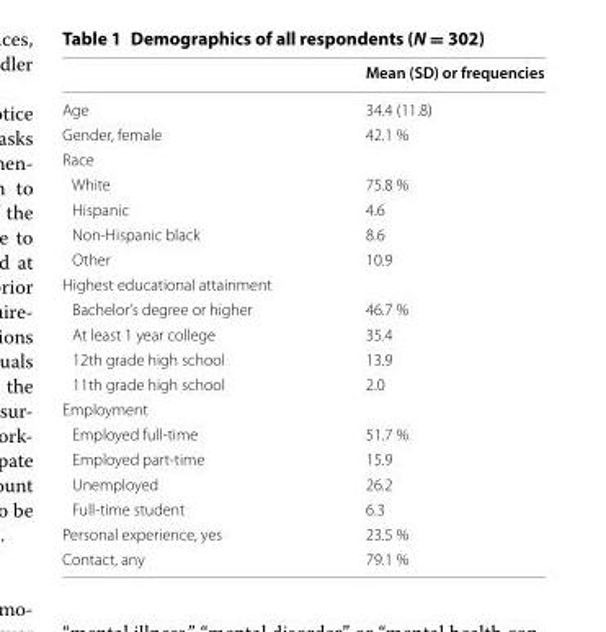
<table><thead><tr><td></td><td>Mean (SD) or frequencies</td></tr></thead><tbody><tr><td>Age</td><td>34.4 (11.8)</td></tr><tr><td>Gender, female</td><td>42.1 %</td></tr><tr><td colspan="2">Race</td></tr><tr><td>White</td><td>75.8 %</td></tr><tr><td>Hispanic</td><td>4.6</td></tr><tr><td>Non-Hispanic black</td><td>8.6</td></tr><tr><td>Other</td><td>10.9</td></tr><tr><td colspan="2">Highest educational attainment</td></tr><tr><td>Bachelor’s degree or higher</td><td>46.7 %</td></tr><tr><td>At least 1 year college</td><td>35.4</td></tr><tr><td>12th grade high school</td><td>13.9</td></tr><tr><td>11th grade high school</td><td>2.0</td></tr><tr><td colspan="2">Employment</td></tr><tr><td>Employed full-time</td><td>51.7 %</td></tr><tr><td>Employed part-time</td><td>15.9</td></tr><tr><td>Unemployed</td><td>26.2</td></tr><tr><td>Full-time student</td><td>6.3</td></tr><tr><td>Personal experience, yes</td><td>23.5 %</td></tr><tr><td>Contact, any</td><td>79.1 %</td></tr></tbody></table>